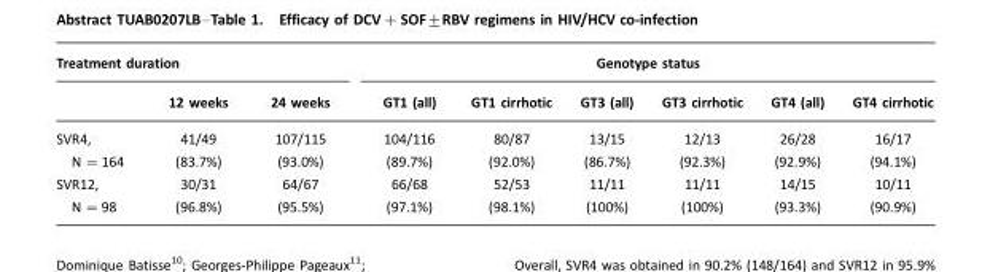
<table><thead><tr><td colspan="3">Treatment duration</td><td colspan="6">Genotype status</td></tr><tr><td></td><td>12 weeks</td><td>24 weeks</td><td>GT1 (all)</td><td>GT1 cirrhotic</td><td>GT3 (all)</td><td>GT3 cirrhotic</td><td>GT4 (all)</td><td>GT4 cirrhotic</td></tr></thead><tbody><tr><td>SVR4, N =164</td><td>41/49 (83.7%)</td><td>107/115 (93.0%)</td><td>104/116 (89.7%)</td><td>80/87 (92.0%)</td><td>13/15 (86.7%)</td><td>12/13 (92.3%)</td><td>26/28 (92.9%)</td><td>16/17 (94.1%)</td></tr><tr><td>SVR12, N =98</td><td>30/31 (96.8%)</td><td>64/67 (95.5%)</td><td>66/68 (97.1%)</td><td>52/53 (98.1%)</td><td>11/11 (100%)</td><td>11/11 (100%)</td><td>14/15 (93.3%)</td><td>10/11 (90.9%)</td></tr></tbody></table>